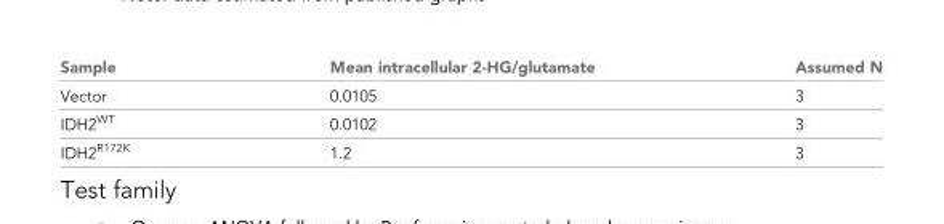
<table><thead><tr><td>Sample</td><td>Mean intracellular 2-HG/glutamate</td><td>Assumed N</td></tr></thead><tbody><tr><td>Vector</td><td>0.0105</td><td>3</td></tr><tr><td>IDH2<sup>WT</sup></td><td>0.0102</td><td>3</td></tr><tr><td>IDH2<sup>R172K</sup></td><td>1.2</td><td>3</td></tr></tbody></table>